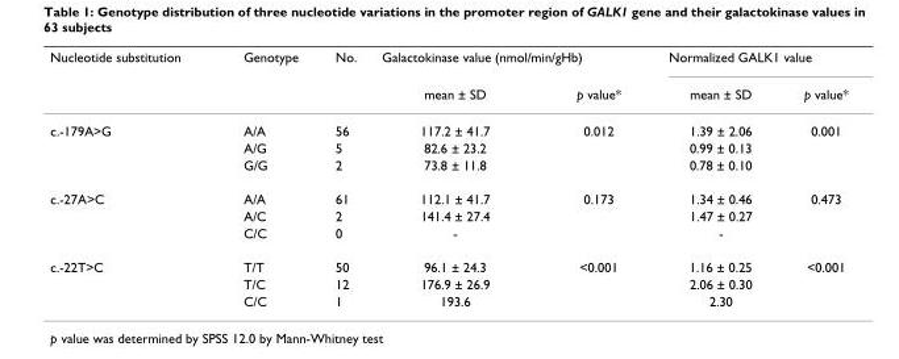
<table><thead><tr><td rowspan="2">Nucleotide substitution</td><td rowspan="2">Genotype</td><td rowspan="2">No.</td><td colspan="2">Galactokinase value (nmol/min/gHb)</td><td colspan="2">Normalized GALK1 value</td></tr><tr><td>mean ± SD</td><td>p value*</td><td>mean ± SD</td><td>p value*</td></tr></thead><tbody><tr><td rowspan="3">c.-179A&gt;G</td><td>A/A</td><td>56</td><td>117.2 ± 41.7</td><td>0.012</td><td>1.39 ± 2.06</td><td>0.001</td></tr><tr><td>A/G</td><td>5</td><td>82.6 ± 23.2</td><td></td><td>0.99 ± 0.13</td><td></td></tr><tr><td>G/G</td><td>2</td><td>73.8 ± 11.8</td><td></td><td>0.78 ± 0.10</td><td></td></tr><tr><td rowspan="3">c.-27A&gt;C</td><td>A/A</td><td>61</td><td>112.1 ± 41.7</td><td>0.173</td><td>1.34 ± 0.46</td><td>0.473</td></tr><tr><td>A/C</td><td>2</td><td>141.4 ± 27.4</td><td></td><td>1.47 ± 0.27</td><td></td></tr><tr><td>C/C</td><td>0</td><td>-</td><td></td><td>-</td><td></td></tr><tr><td rowspan="3">c.-22T&gt;C</td><td>T/T</td><td>50</td><td>96.1 ± 24.3</td><td>&lt;0.001</td><td>1.16 ± 0.25</td><td>&lt;0.001</td></tr><tr><td>T/C</td><td>12</td><td>176.9 ± 26.9</td><td></td><td>2.06 ± 0.30</td><td></td></tr><tr><td>C/C</td><td>1</td><td>193.6</td><td></td><td>2.30</td><td></td></tr></tbody></table>